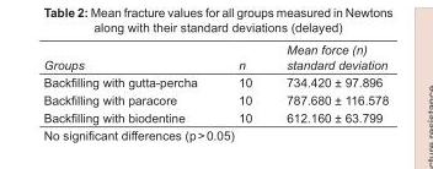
<table><tbody><tr><td>Groups</td><td>n</td><td>Mean force (n) standard deviation</td></tr><tr><td>Backfilling with gutta-percha</td><td>10</td><td>734.420 ± 97.896</td></tr><tr><td>Backfilling with paracore</td><td>10</td><td>787.680 ± 116.578</td></tr><tr><td>Backfilling with biodentine</td><td>10</td><td>612.160 ± 63.799</td></tr></tbody></table>